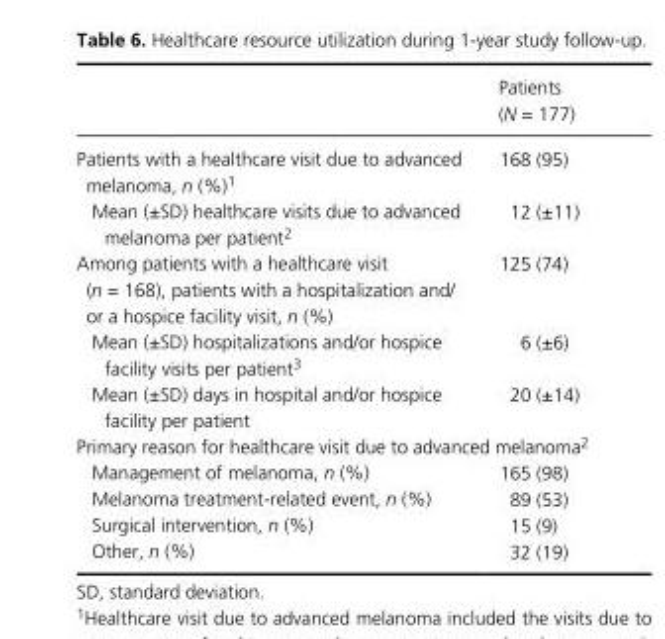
<table><thead><tr><td></td><td>Patients (N = 177)</td></tr></thead><tbody><tr><td>Patients with a healthcare visit due to advanced melanoma, n (%)1</td><td>168 (95)</td></tr><tr><td>Mean (±SD) healthcare visits due to advanced melanoma per patient2</td><td>12 (±11)</td></tr><tr><td>Among patients with a healthcare visit (n = 168), patients with a hospitalization and/ or a hospice facility visit, n (%)</td><td>125 (74)</td></tr><tr><td>Mean (±SD) hospitalizations and/or hospice facility visits per patient3</td><td>6 (±6)</td></tr><tr><td>Mean (±SD) days in hospital and/or hospice facility per patient</td><td>20 (±14)</td></tr><tr><td colspan="2">Primary reason for healthcare visit due to advanced melanoma2</td></tr><tr><td>Management of melanoma, n (%)</td><td>165 (98)</td></tr><tr><td>Melanoma treatment- related event, n (%)</td><td>89 (53)</td></tr><tr><td>Surgical intervention, n (%)</td><td>15 (9)</td></tr><tr><td>Other, n (%)</td><td>32 (19)</td></tr></tbody></table>